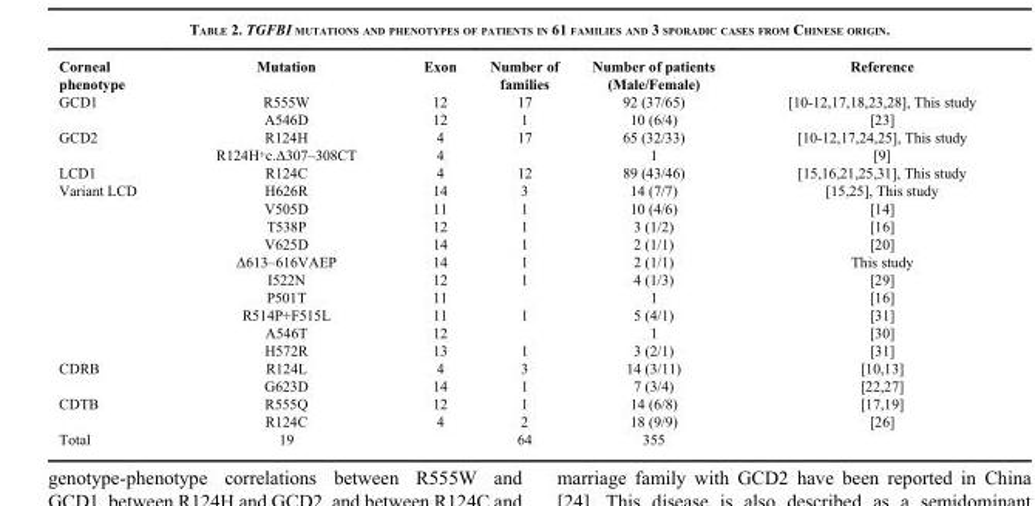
<table><thead><tr><td>Corneal phenotype</td><td>Mutation</td><td>Exon</td><td>Number of families</td><td>Number of patients (Male/Female)</td><td>Reference</td></tr></thead><tbody><tr><td rowspan="2">GCD1</td><td>R555W</td><td>12</td><td>17</td><td>92 (37/65)</td><td>[10-12,17,18,23,28], This study</td></tr><tr><td>A546D</td><td>12</td><td>1</td><td>10 (6/4)</td><td>[23]</td></tr><tr><td rowspan="2">GCD2</td><td>R124H</td><td>4</td><td>17</td><td>65 (32/33)</td><td>[10-12,17,24,25], This study</td></tr><tr><td>R124H<sup>+</sup>c.Δ307–308CT</td><td>4</td><td></td><td>1</td><td>[9]</td></tr><tr><td>LCD1</td><td>R124C</td><td>4</td><td>12</td><td>89 (43/46)</td><td>[15,16,21,25,31], This study</td></tr><tr><td rowspan="10">Variant LCD</td><td>H626R</td><td>14</td><td>3</td><td>14 (7/7)</td><td>[15,25], This study</td></tr><tr><td>V505D</td><td>11</td><td>1</td><td>10 (4/6)</td><td>[14]</td></tr><tr><td>T538P</td><td>12</td><td>1</td><td>3 (1/2)</td><td>[16]</td></tr><tr><td>V625D</td><td>14</td><td>1</td><td>2 (1/1)</td><td>[20]</td></tr><tr><td>Δ613–616VAEP</td><td>14</td><td>1</td><td>2 (1/1)</td><td>This study</td></tr><tr><td>I522N</td><td>12</td><td>1</td><td>4 (1/3)</td><td>[29]</td></tr><tr><td>P501T</td><td>11</td><td></td><td>1</td><td>[16]</td></tr><tr><td>R514P+F515L</td><td>11</td><td>1</td><td>5 (4/1)</td><td>[31]</td></tr><tr><td>A546T</td><td>12</td><td></td><td>1</td><td>[30]</td></tr><tr><td>H572R</td><td>13</td><td>1</td><td>3 (2/1)</td><td>[31]</td></tr><tr><td rowspan="2">CDRB</td><td>R124L</td><td>4</td><td>3</td><td>14 (3/11)</td><td>[10,13]</td></tr><tr><td>G623D</td><td>14</td><td>1</td><td>7 (3/4)</td><td>[22,27]</td></tr><tr><td rowspan="2">CDTB</td><td>R555Q</td><td>12</td><td>1</td><td>14 (6/8)</td><td>[17,19]</td></tr><tr><td>R124C</td><td>4</td><td>2</td><td>18 (9/9)</td><td>[26]</td></tr><tr><td>Total</td><td>19</td><td></td><td>64</td><td>355</td><td></td></tr></tbody></table>